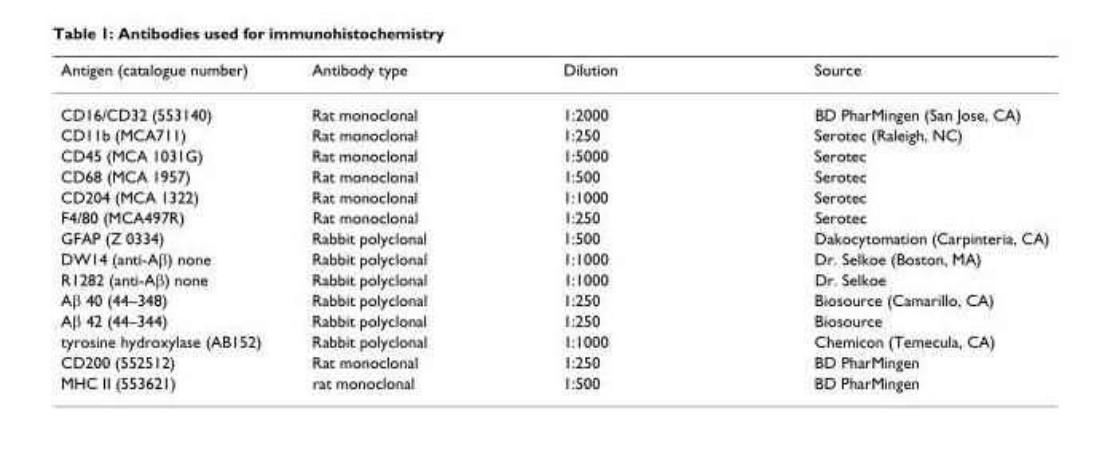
<table><thead><tr><td>Antigen (catalogue number)</td><td>Antibody type</td><td>Dilution</td><td>Source</td></tr></thead><tbody><tr><td>CD16/CD32 (553140)</td><td>Rat monoclonal</td><td>1:2000</td><td>BD PharMingen (San Jose, CA)</td></tr><tr><td>CD11b (MCA711)</td><td>Rat monoclonal</td><td>1:250</td><td>Serotec (Raleigh, NC)</td></tr><tr><td>CD45 (MCA 1031G)</td><td>Rat monoclonal</td><td>1:5000</td><td>Serotec</td></tr><tr><td>CD68 (MCA 1957)</td><td>Rat monoclonal</td><td>1:500</td><td>Serotec</td></tr><tr><td>CD204 (MCA 1322)</td><td>Rat monoclonal</td><td>1:1000</td><td>Serotec</td></tr><tr><td>F4/80 (MCA497R)</td><td>Rat monoclonal</td><td>1:250</td><td>Serotec</td></tr><tr><td>GFAP (Z 0334)</td><td>Rabbit polyclonal</td><td>1:500</td><td>Dakocytomation (Carpinteria, CA)</td></tr><tr><td>DW14 (anti-Aβ) none</td><td>Rabbit polyclonal</td><td>1:1000</td><td>Dr. Selkoe (Boston, MA)</td></tr><tr><td>R1282 (anti-Aβ) none</td><td>Rabbit polyclonal</td><td>1:1000</td><td>Dr. Selkoe</td></tr><tr><td>Aβ 40 (44–348)</td><td>Rabbit polyclonal</td><td>1:250</td><td>Biosource (Camarillo, CA)</td></tr><tr><td>Aβ 42 (44–344)</td><td>Rabbit polyclonal</td><td>1:250</td><td>Biosource</td></tr><tr><td>tyrosine hydroxylase (AB152)</td><td>Rabbit polyclonal</td><td>1:1000</td><td>Chemicon (Temecula, CA)</td></tr><tr><td>CD200 (552512)</td><td>Rat monoclonal</td><td>1:250</td><td>BD PharMingen</td></tr><tr><td>MHC II (553621)</td><td>rat monoclonal</td><td>1:500</td><td>BD PharMingen</td></tr></tbody></table>